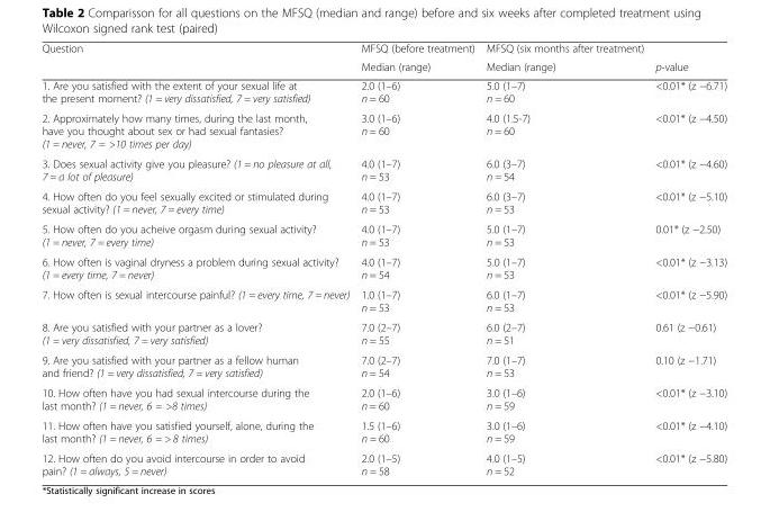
<table><thead><tr><td rowspan="2">Question</td><td rowspan="2">MFSQ (before treatment) Median (range)</td><td rowspan="2">MFSQ (six months after treatment) Median (range)</td><td rowspan="2">p-value</td></tr><tr></tr></thead><tbody><tr><td>1. Are you satisfied with the extent of your sexual life at the present moment? (1 = very dissatisfied, 7 = very satisfied)</td><td>2.0 (1–6) n = 60</td><td>5.0 (1–7) n = 60</td><td>&lt;0.01* (z −6.71)</td></tr><tr><td>2. Approximately how many times, during the last month, have you thought about sex or had sexual fantasies? (1 = never, 7 = &gt;10 times per day)</td><td>3.0 (1–6) n = 60</td><td>4.0 (1.5-7) n = 60</td><td>&lt;0.01* (z −4.50)</td></tr><tr><td>3. Does sexual activity give you pleasure? (1 = no pleasure at all, 7 = a lot of pleasure)</td><td>4.0 (1–7) n = 53</td><td>6.0 (3–7) n = 54</td><td>&lt;0.01* (z −4.60)</td></tr><tr><td>4. How often do you feel sexually excited or stimulated during sexual activity? (1 = never, 7 = every time)</td><td>4.0 (1–7) n = 53</td><td>6.0 (3–7) n = 53</td><td>&lt;0.01* (z −5.10)</td></tr><tr><td>5. How often do you acheive orgasm during sexual activity? (1 = never, 7 = every time)</td><td>4.0 (1–7) n = 53</td><td>5.0 (1–7) n = 53</td><td>0.01* (z −2.50)</td></tr><tr><td>6. How often is vaginal dryness a problem during sexual activity? (1 = every time, 7 = never)</td><td>4.0 (1–7) n = 54</td><td>5.0 (1–7) n = 53</td><td>&lt;0.01* (z −3.13)</td></tr><tr><td>7. How often is sexual intercourse painful? (1 = every time, 7 = never)</td><td>1.0 (1–7) n = 53</td><td>6.0 (1–7) n = 53</td><td>&lt;0.01* (z −5.90)</td></tr><tr><td>8. Are you satisfied with your partner as a lover? (1 = very dissatisfied, 7 = very satisfied)</td><td>7.0 (2–7) n = 55</td><td>6.0 (2–7) n = 51</td><td>0.61 (z −0.61)</td></tr><tr><td>9. Are you satisfied with your partner as a fellow human and friend? (1 = very dissatisfied, 7 = very satisfied)</td><td>7.0 (2–7) n = 54</td><td>7.0 (1–7) n = 53</td><td>0.10 (z −1.71)</td></tr><tr><td>10. How often have you had sexual intercourse during the last month? (1 = never, 6 = &gt;8 times)</td><td>2.0 (1–6) n = 60</td><td>3.0 (1–6) n = 59</td><td>&lt;0.01* (z −3.10)</td></tr><tr><td>11. How often have you satisfied yourself, alone, during the last month? (1 = never, 6 = &gt; 8 times)</td><td>1.5 (1–6) n = 60</td><td>3.0 (1–6) n = 59</td><td>&lt;0.01* (z −4.10)</td></tr><tr><td>12. How often do you avoid intercourse in order to avoid pain? (1 = always, 5 = never)</td><td>2.0 (1–5) n = 58</td><td>4.0 (1–5) n = 52</td><td>&lt;0.01* (z −5.80)</td></tr></tbody></table>